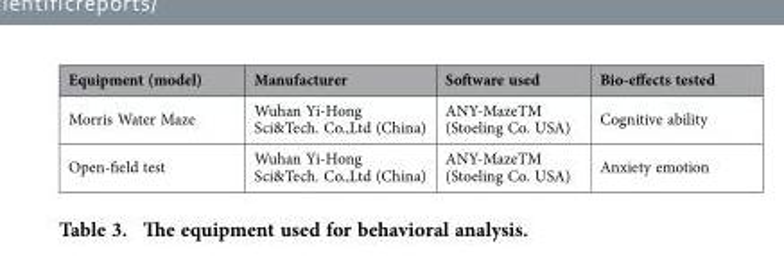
<table><thead><tr><td>Equipment (model)</td><td>Manufacturer</td><td>Software used</td><td>Bio-effects tested</td></tr></thead><tbody><tr><td>Morris Water Maze</td><td>Wuhan Yi-Hong Sci&amp;Tech. Co.,Ltd (China)</td><td>ANY-MazeTM (Stoeling Co. USA)</td><td>Cognitive ability</td></tr><tr><td>Open-field test</td><td>Wuhan Yi-Hong Sci&amp;Tech. Co.,Ltd (China)</td><td>ANY-MazeTM (Stoeling Co. USA)</td><td>Anxiety emotion</td></tr></tbody></table>